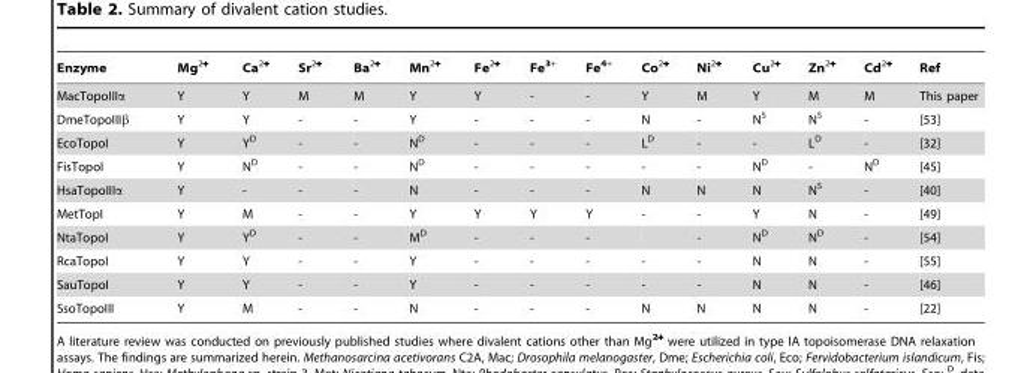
<table><thead><tr><td>Enzyme</td><td>Mg<sup>2+</sup></td><td>Ca<sup>2+</sup></td><td>Sr<sup>2+</sup></td><td>Ba<sup>2+</sup></td><td>Mn<sup>2+</sup></td><td>Fe<sup>2+</sup></td><td>Fe<sup>3+</sup></td><td>Fe<sup>4+</sup></td><td>Co<sup>2+</sup></td><td>Ni<sup>2+</sup></td><td>Cu<sup>2+</sup></td><td>Zn<sup>2+</sup></td><td>Cd<sup>2+</sup></td><td>Ref</td></tr></thead><tbody><tr><td>MacTopoIIIα</td><td>Y</td><td>Y</td><td>M</td><td>M</td><td>Y</td><td>Y</td><td>-</td><td>-</td><td>Y</td><td>M</td><td>Y</td><td>M</td><td>M</td><td>This paper</td></tr><tr><td>DmeTopoIIIβ</td><td>Y</td><td>Y</td><td>-</td><td>-</td><td>Y</td><td>-</td><td>-</td><td>-</td><td>N</td><td>-</td><td>N<sup>S</sup></td><td>N<sup>S</sup></td><td>-</td><td>[53]</td></tr><tr><td>EcoTopoI</td><td>Y</td><td>Y<sup>D</sup></td><td>-</td><td>-</td><td>N<sup>D</sup></td><td>-</td><td>-</td><td>-</td><td>L<sup>D</sup></td><td>-</td><td>-</td><td>L<sup>D</sup></td><td>-</td><td>[32]</td></tr><tr><td>FisTopoI</td><td>Y</td><td>N<sup>D</sup></td><td>-</td><td>-</td><td>N<sup>D</sup></td><td>-</td><td>-</td><td>-</td><td>-</td><td>-</td><td>N<sup>D</sup></td><td>-</td><td>N<sup>D</sup></td><td>[45]</td></tr><tr><td>HsaTopoIIIα</td><td>Y</td><td>-</td><td>-</td><td>-</td><td>N</td><td>-</td><td>-</td><td>-</td><td>N</td><td>N</td><td>N</td><td>N<sup>S</sup></td><td>-</td><td>[40]</td></tr><tr><td>MetTopI</td><td>Y</td><td>M</td><td>-</td><td>-</td><td>Y</td><td>Y</td><td>Y</td><td>Y</td><td>-</td><td>-</td><td>Y</td><td>N</td><td>-</td><td>[49]</td></tr><tr><td>NtaTopoI</td><td>Y</td><td>Y<sup>D</sup></td><td>-</td><td>-</td><td>M<sup>D</sup></td><td>-</td><td>-</td><td>-</td><td></td><td>-</td><td>N<sup>D</sup></td><td>N<sup>D</sup></td><td>-</td><td>[54]</td></tr><tr><td>RcaTopoI</td><td>Y</td><td>Y</td><td>-</td><td>-</td><td>Y</td><td>-</td><td>-</td><td>-</td><td>-</td><td>-</td><td>N</td><td>N</td><td>-</td><td>[55]</td></tr><tr><td>SauTopoI</td><td>Y</td><td>Y</td><td>-</td><td>-</td><td>Y</td><td>-</td><td>-</td><td>-</td><td>-</td><td>-</td><td>N</td><td>N</td><td>-</td><td>[46]</td></tr><tr><td>SsoTopoIII</td><td>Y</td><td>M</td><td>-</td><td>-</td><td>N</td><td>-</td><td>-</td><td>-</td><td>N</td><td>N</td><td>N</td><td>N</td><td>-</td><td>[22]</td></tr></tbody></table>